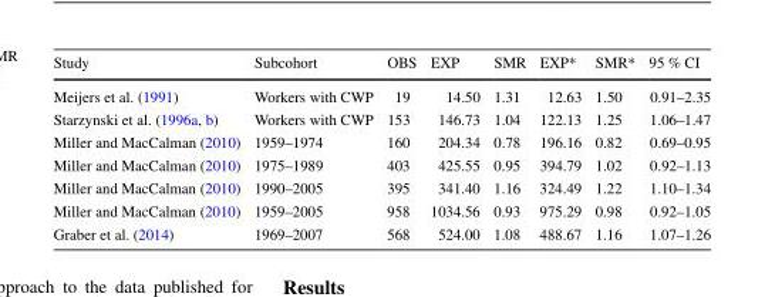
<table><thead><tr><td>Study</td><td>Subcohort</td><td>OBS</td><td>EXP</td><td>SMR</td><td>EXP*</td><td>SMR*</td><td>95 % CI</td></tr></thead><tbody><tr><td>Meijers et al. (1991)</td><td>Workers with CWP</td><td>19</td><td>14.50</td><td>1.31</td><td>12.63</td><td>1.50</td><td>0.91–2.35</td></tr><tr><td>Starzynski et al. (1996a, b)</td><td>Workers with CWP</td><td>153</td><td>146.73</td><td>1.04</td><td>122.13</td><td>1.25</td><td>1.06–1.47</td></tr><tr><td>Miller and MacCalman (2010)</td><td>1959–1974</td><td>160</td><td>204.34</td><td>0.78</td><td>196.16</td><td>0.82</td><td>0.69–0.95</td></tr><tr><td>Miller and MacCalman (2010)</td><td>1975–1989</td><td>403</td><td>425.55</td><td>0.95</td><td>394.79</td><td>1.02</td><td>0.92–1.13</td></tr><tr><td>Miller and MacCalman (2010)</td><td>1990–2005</td><td>395</td><td>341.40</td><td>1.16</td><td>324.49</td><td>1.22</td><td>1.10–1.34</td></tr><tr><td>Miller and MacCalman (2010)</td><td>1959–2005</td><td>958</td><td>1034.56</td><td>0.93</td><td>975.29</td><td>0.98</td><td>0.92–1.05</td></tr><tr><td>Graber et al. (2014)</td><td>1969–2007</td><td>568</td><td>524.00</td><td>1.08</td><td>488.67</td><td>1.16</td><td>1.07–1.26</td></tr></tbody></table>